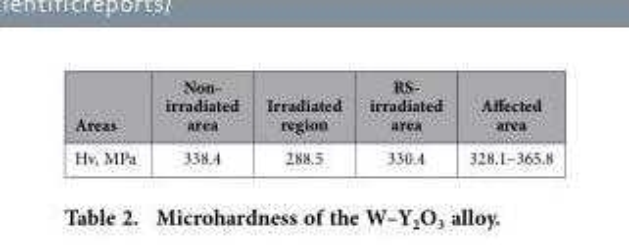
<table><thead><tr><td>Areas</td><td>Non- irradiated area</td><td>Irradiated region</td><td>RS- irradiated area</td><td>Affected area</td></tr></thead><tbody><tr><td>Hv, MPa</td><td>338.4</td><td>288.5</td><td>330.4</td><td>328.1–365.8</td></tr></tbody></table>